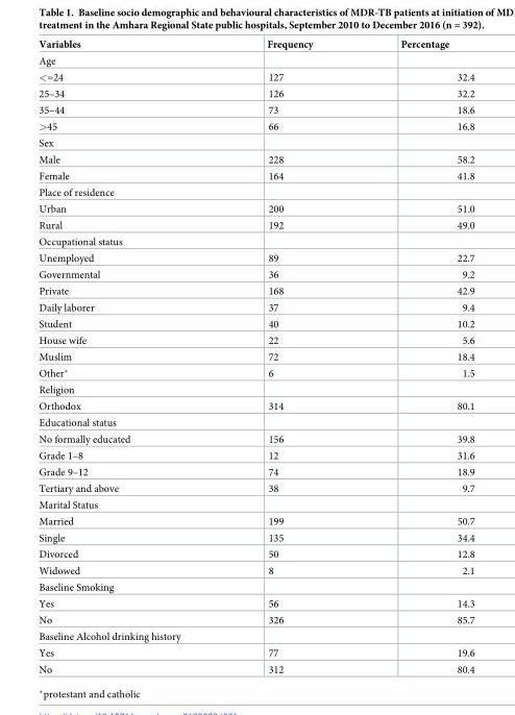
<table><thead><tr><td>Variables</td><td>Frequency</td><td>Percentage</td></tr></thead><tbody><tr><td colspan="3">Age</td></tr><tr><td>&lt;=24</td><td>127</td><td>32.4</td></tr><tr><td>25–34</td><td>126</td><td>32.2</td></tr><tr><td>35–44</td><td>73</td><td>18.6</td></tr><tr><td>&gt;45</td><td>66</td><td>16.8</td></tr><tr><td colspan="3">Sex</td></tr><tr><td>Male</td><td>228</td><td>58.2</td></tr><tr><td>Female</td><td>164</td><td>41.8</td></tr><tr><td colspan="3">Place of residence</td></tr><tr><td>Urban</td><td>200</td><td>51.0</td></tr><tr><td>Rural</td><td>192</td><td>49.0</td></tr><tr><td colspan="3">Occupational status</td></tr><tr><td>Unemployed</td><td>89</td><td>22.7</td></tr><tr><td>Governmental</td><td>36</td><td>9.2</td></tr><tr><td>Private</td><td>168</td><td>42.9</td></tr><tr><td>Daily laborer</td><td>37</td><td>9.4</td></tr><tr><td>Student</td><td>40</td><td>10.2</td></tr><tr><td>House wife</td><td>22</td><td>5.6</td></tr><tr><td>Muslim</td><td>72</td><td>18.4</td></tr><tr><td>Other*</td><td>6</td><td>1.5</td></tr><tr><td colspan="3">Religion</td></tr><tr><td>Orthodox</td><td>314</td><td>80.1</td></tr><tr><td colspan="3">Educational status</td></tr><tr><td>No formally educated</td><td>156</td><td>39.8</td></tr><tr><td>Grade 1–8</td><td>12</td><td>31.6</td></tr><tr><td>Grade 9–12</td><td>74</td><td>18.9</td></tr><tr><td>Tertiary and above</td><td>38</td><td>9.7</td></tr><tr><td colspan="3">Marital Status</td></tr><tr><td>Married</td><td>199</td><td>50.7</td></tr><tr><td>Single</td><td>135</td><td>34.4</td></tr><tr><td>Divorced</td><td>50</td><td>12.8</td></tr><tr><td>Widowed</td><td>8</td><td>2.1</td></tr><tr><td colspan="3">Baseline Smoking</td></tr><tr><td>Yes</td><td>56</td><td>14.3</td></tr><tr><td>No</td><td>326</td><td>85.7</td></tr><tr><td colspan="3">Baseline Alcohol drinking history</td></tr><tr><td>Yes</td><td>77</td><td>19.6</td></tr><tr><td>No</td><td>312</td><td>80.4</td></tr></tbody></table>